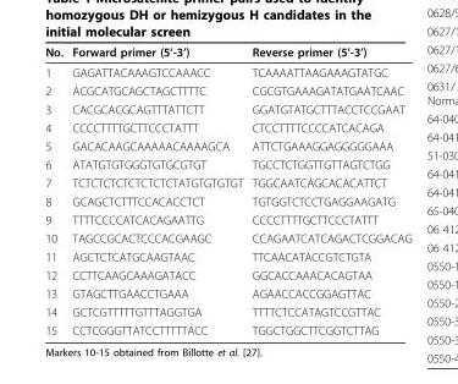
<table><thead><tr><td>No.</td><td>Forward primer (5’-3’)</td><td>Reverse primer (5’-3’)</td></tr></thead><tbody><tr><td>1</td><td>GAGATTACAAAGTCCAAACC</td><td>TCAAAATTAAGAAAGTATGC</td></tr><tr><td>2</td><td>ACGCATGCAGCTAGCTTTTC</td><td>CGCGTGAAAGATATGAATCAAC</td></tr><tr><td>3</td><td>CACGCACGCAGTTTATTCTT</td><td>GGATGTATGCTTTACCTCCGAAT</td></tr><tr><td>4</td><td>CCCCTTTTGCTTCCCTATTT</td><td>CTCCTTTTCCCCATCACAGA</td></tr><tr><td>5</td><td>GACACAAGCAAAAACAAAAGCA</td><td>ATTCTGAAAGGAGGGGGAAA</td></tr><tr><td>6</td><td>ATATGTGTGGGTGTGCGTGT</td><td>TGCCTCTGGTTGTTAGTCTGG</td></tr><tr><td>7</td><td>TCTCTCTCTCTCTCTCTATGTGTGTGT</td><td>TGGCAATCAGCACACATTCT</td></tr><tr><td>8</td><td>GCAGCTCTTTCCACACCTCT</td><td>TGTGGTCTCCTGAGGAAGATG</td></tr><tr><td>9</td><td>TTTTCCCCATCACAGAATTG</td><td>CCCCTTTTGCTTCCCTATTT</td></tr><tr><td>10</td><td>TAGCCGCACTCCCACGAAGC</td><td>CCAGAATCATCAGACTCGGACAG</td></tr><tr><td>11</td><td>AGCTCTCATGCAAGTAAC</td><td>TTCAACATACCGTCTGTA</td></tr><tr><td>12</td><td>CCTTCAAGCAAAGATACC</td><td>GGCACCAAACACAGTAA</td></tr><tr><td>13</td><td>GTAGCTTGAACCTGAAA</td><td>AGAACCACCGGAGTTAC</td></tr><tr><td>14</td><td>GCTCGTTTTTGTTTAGGTGA</td><td>TTTTCTCCATAGTCCGTTAC</td></tr><tr><td>15</td><td>CCTCGGGTTATCCTTTTTACC</td><td>TGGCTGGCTTCGGTCTTAG</td></tr></tbody></table>